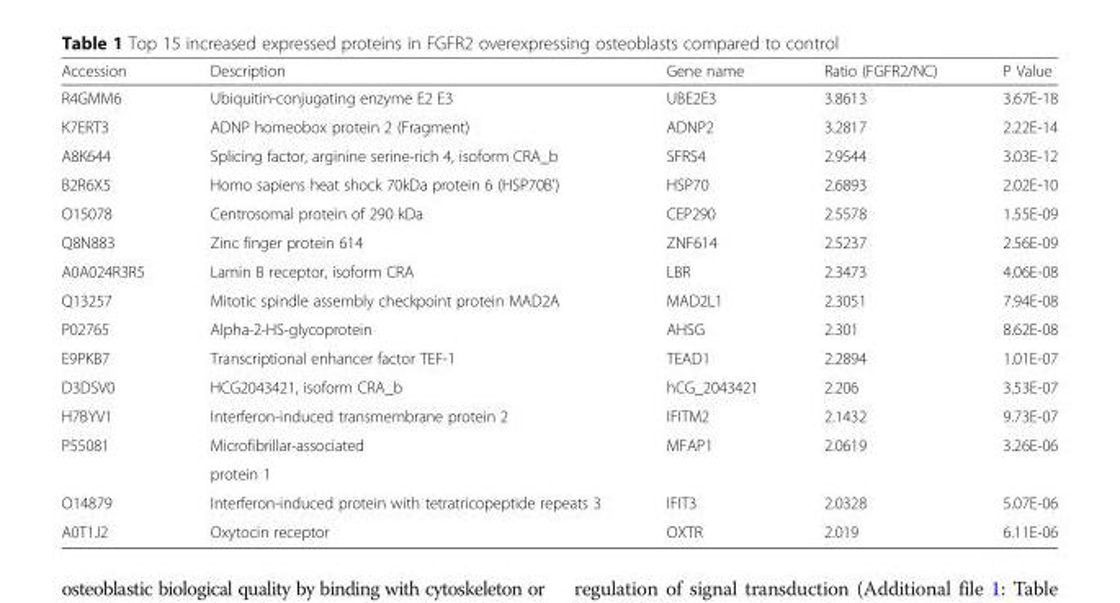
<table><thead><tr><td>Accession</td><td>Description</td><td>Gene name</td><td>Ratio (FGFR2/NC)</td><td>P Value</td></tr></thead><tbody><tr><td>R4GMM6</td><td>Ubiquitin-conjugating enzyme E2 E3</td><td>UBE2E3</td><td>3.8613</td><td>3.67E-18</td></tr><tr><td>K7ERT3</td><td>ADNP homeobox protein 2 (Fragment)</td><td>ADNP2</td><td>3.2817</td><td>2.22E-14</td></tr><tr><td>A8K644</td><td>Splicing factor, arginine serine-rich 4, isoform CRA_b</td><td>SFRS4</td><td>2.9544</td><td>3.03E-12</td></tr><tr><td>B2R6X5</td><td>Homo sapiens heat shock 70kDa protein 6 (HSP70B&#x27;)</td><td>HSP70</td><td>2.6893</td><td>2.02E-10</td></tr><tr><td>O15078</td><td>Centrosomal protein of 290 kDa</td><td>CEP290</td><td>2.5578</td><td>1.55E-09</td></tr><tr><td>Q8N883</td><td>Zinc finger protein 614</td><td>ZNF614</td><td>2.5237</td><td>2.56E-09</td></tr><tr><td>A0A024R3R5</td><td>Lamin B receptor, isoform CRA</td><td>LBR</td><td>2.3473</td><td>4.06E-08</td></tr><tr><td>Q13257</td><td>Mitotic spindle assembly checkpoint protein MAD2A</td><td>MAD2L1</td><td>2.3051</td><td>7.94E-08</td></tr><tr><td>P02765</td><td>Alpha-2-HS-glycoprotein</td><td>AHSG</td><td>2.301</td><td>8.62E-08</td></tr><tr><td>E9PKB7</td><td>Transcriptional enhancer factor TEF-1</td><td>TEAD1</td><td>2.2894</td><td>1.01E-07</td></tr><tr><td>D3DSV0</td><td>HCG2043421, isoform CRA_b</td><td>hCG_2043421</td><td>2.206</td><td>3.53E-07</td></tr><tr><td>H7BYV1</td><td>Interferon-induced transmembrane protein 2</td><td>IFITM2</td><td>2.1432</td><td>9.73E-07</td></tr><tr><td rowspan="2">P55081</td><td>Microfibrillar-associated</td><td rowspan="2">MFAP1</td><td rowspan="2">2.0619</td><td rowspan="2">3.26E-06</td></tr><tr><td>protein 1</td></tr><tr><td>O14879</td><td>Interferon-induced protein with tetratricopeptide repeats 3</td><td>IFIT3</td><td>2.0328</td><td>5.07E-06</td></tr><tr><td>A0T1J2</td><td>Oxytocin receptor</td><td>OXTR</td><td>2.019</td><td>6.11E-06</td></tr></tbody></table>